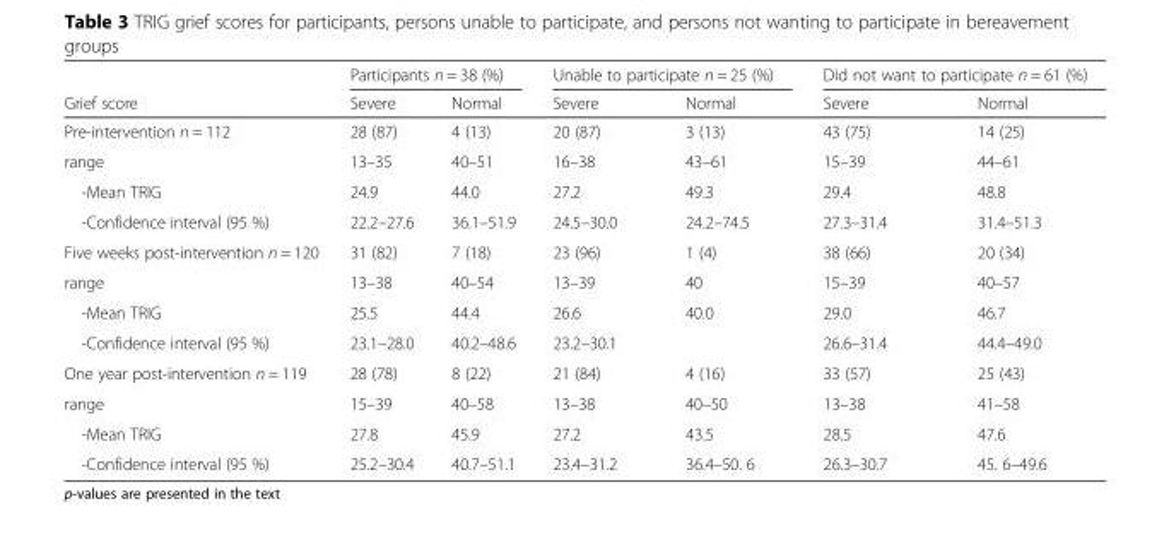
<table><thead><tr><td rowspan="2">Grief score</td><td colspan="2">Participants n = 38 (%)</td><td colspan="2">Unable to participate n = 25 (%)</td><td colspan="2">Did not want to participate n = 61 (%)</td></tr><tr><td>Severe</td><td>Normal</td><td>Severe</td><td>Normal</td><td>Severe</td><td>Normal</td></tr></thead><tbody><tr><td>Pre-intervention n = 112</td><td>28 (87)</td><td>4 (13)</td><td>20 (87)</td><td>3 (13)</td><td>43 (75)</td><td>14 (25)</td></tr><tr><td>range</td><td>13–35</td><td>40–51</td><td>16–38</td><td>43–61</td><td>15–39</td><td>44–61</td></tr><tr><td>-Mean TRIG</td><td>24.9</td><td>44.0</td><td>27.2</td><td>49.3</td><td>29.4</td><td>48.8</td></tr><tr><td>-Confidence interval (95 %)</td><td>22.2–27.6</td><td>36.1–51.9</td><td>24.5–30.0</td><td>24.2–74.5</td><td>27.3–31.4</td><td>31.4–51.3</td></tr><tr><td>Five weeks post-intervention n = 120</td><td>31 (82)</td><td>7 (18)</td><td>23 (96)</td><td>1 (4)</td><td>38 (66)</td><td>20 (34)</td></tr><tr><td>range</td><td>13–38</td><td>40–54</td><td>13–39</td><td>40</td><td>15–39</td><td>40–57</td></tr><tr><td>-Mean TRIG</td><td>25.5</td><td>44.4</td><td>26.6</td><td>40.0</td><td>29.0</td><td>46.7</td></tr><tr><td>-Confidence interval (95 %)</td><td>23.1–28.0</td><td>40.2–48.6</td><td>23.2–30.1</td><td></td><td>26.6–31.4</td><td>44.4–49.0</td></tr><tr><td>One year post-intervention n = 119</td><td>28 (78)</td><td>8 (22)</td><td>21 (84)</td><td>4 (16)</td><td>33 (57)</td><td>25 (43)</td></tr><tr><td>range</td><td>15–39</td><td>40–58</td><td>13–38</td><td>40–50</td><td>13–38</td><td>41–58</td></tr><tr><td>-Mean TRIG</td><td>27.8</td><td>45.9</td><td>27.2</td><td>43.5</td><td>28.5</td><td>47.6</td></tr><tr><td>-Confidence interval (95 %)</td><td>25.2–30.4</td><td>40.7–51.1</td><td>23.4–31.2</td><td>36.4–50. 6</td><td>26.3–30.7</td><td>45. 6–49.6</td></tr></tbody></table>